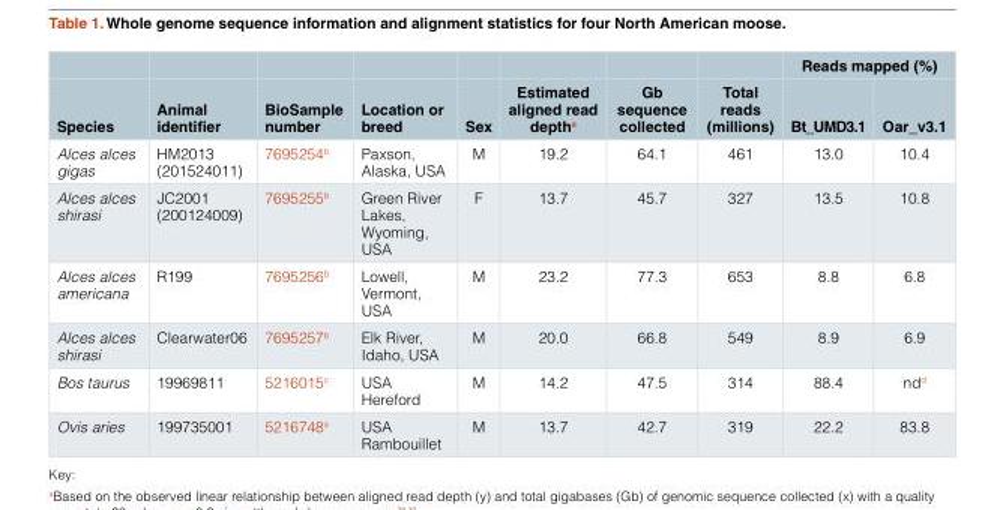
<table><thead><tr><td rowspan="2">Species</td><td rowspan="2">Animal identifier</td><td rowspan="2">BioSample number</td><td rowspan="2">Location or breed</td><td rowspan="2">Sex</td><td rowspan="2">Estimated aligned read depth<sup>a</sup></td><td rowspan="2">Gb sequence collected</td><td rowspan="2">Total reads (millions)</td><td colspan="2">Reads mapped (%)</td></tr><tr><td>Bt_UMD3.1</td><td>Oar_v3.1</td></tr></thead><tbody><tr><td>Alces alces gigas</td><td>HM2013 (201524011)</td><td>7695254<sup>b</sup></td><td>Paxson, Alaska, USA</td><td>M</td><td>19.2</td><td>64.1</td><td>461</td><td>13.0</td><td>10.4</td></tr><tr><td>Alces alces shirasi</td><td>JC2001 (200124009)</td><td>7695255<sup>b</sup></td><td>Green River Lakes, Wyoming, USA</td><td>F</td><td>13.7</td><td>45.7</td><td>327</td><td>13.5</td><td>10.8</td></tr><tr><td>Alces alces americana</td><td>R199</td><td>7695256<sup>b</sup></td><td>Lowell, Vermont, USA</td><td>M</td><td>23.2</td><td>77.3</td><td>653</td><td>8.8</td><td>6.8</td></tr><tr><td>Alces alces shirasi</td><td>Clearwater06</td><td>7695257<sup>b</sup></td><td>Elk River, Idaho, USA</td><td>M</td><td>20.0</td><td>66.8</td><td>549</td><td>8.9</td><td>6.9</td></tr><tr><td>Bos taurus</td><td>19969811</td><td>5216015<sup>c</sup></td><td>USA Hereford</td><td>M</td><td>14.2</td><td>47.5</td><td>314</td><td>88.4</td><td>nd<sup>d</sup></td></tr><tr><td>Ovis aries</td><td>199735001</td><td>5216748<sup>e</sup></td><td>USA Rambouillet</td><td>M</td><td>13.7</td><td>42.7</td><td>319</td><td>22.2</td><td>83.8</td></tr></tbody></table>